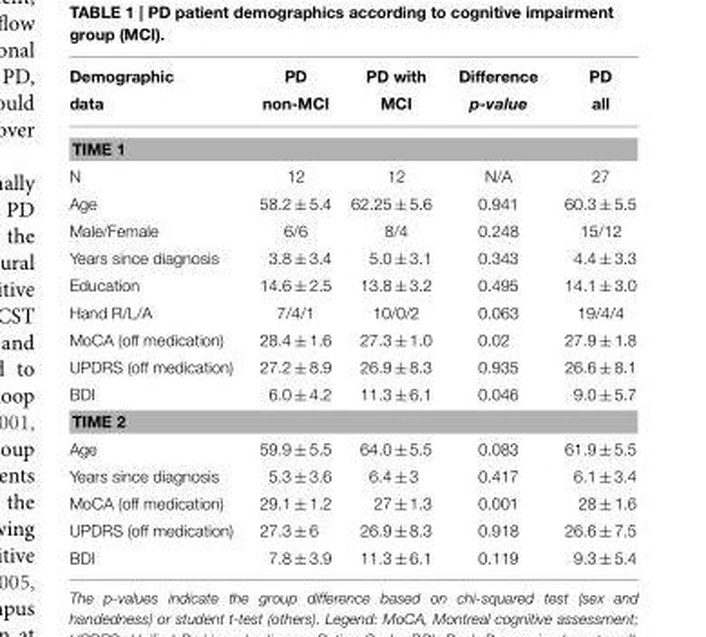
<table><thead><tr><td>Demographic data</td><td>PD non-MCI</td><td>PD with MCI</td><td>Difference p-value</td><td>PD all</td></tr></thead><tbody><tr><td colspan="5">TIME 1</td></tr><tr><td>N</td><td>12</td><td>12</td><td>N/A</td><td>27</td></tr><tr><td>Age</td><td>58.2 ± 5.4</td><td>62.25 ± 5.6</td><td>0.941</td><td>60.3 ± 5.5</td></tr><tr><td>Male/Female</td><td>6/6</td><td>8/4</td><td>0.248</td><td>15/12</td></tr><tr><td>Years since diagnosis</td><td>3.8 ± 3.4</td><td>5.0 ± 3.1</td><td>0.343</td><td>4.4 ± 3.3</td></tr><tr><td>Education</td><td>14.6 ± 2.5</td><td>13.8 ± 3.2</td><td>0.495</td><td>14.1 ± 3.0</td></tr><tr><td>Hand R/L/A</td><td>7/4/1</td><td>10/0/2</td><td>0.063</td><td>19/4/4</td></tr><tr><td>MoCA (off medication)</td><td>28.4 ± 1.6</td><td>27.3 ± 1.0</td><td>0.02</td><td>27.9 ± 1.8</td></tr><tr><td>UPDRS (off medication)</td><td>27.2 ± 8.9</td><td>26.9 ± 8.3</td><td>0.935</td><td>26.6 ± 8.1</td></tr><tr><td>BDI</td><td>6.0 ± 4.2</td><td>11.3 ± 6.1</td><td>0.046</td><td>9.0 ± 5.7</td></tr><tr><td colspan="5">TIME 2</td></tr><tr><td>Age</td><td>59.9 ± 5.5</td><td>64.0 ± 5.5</td><td>0.083</td><td>61.9 ± 5.5</td></tr><tr><td>Years since diagnosis</td><td>5.3 ± 3.6</td><td>6.4 ± 3</td><td>0.417</td><td>6.1 ± 3.4</td></tr><tr><td>MoCA (off medication)</td><td>29.1 ± 1.2</td><td>27 ± 1.3</td><td>0.001</td><td>28 ± 1.6</td></tr><tr><td>UPDRS (off medication)</td><td>27.3 ± 6</td><td>26.9 ± 8.3</td><td>0.918</td><td>26.6 ± 7.5</td></tr><tr><td>BDI</td><td>7.8 ± 3.9</td><td>11.3 ± 6.1</td><td>0.119</td><td>9.3 ± 5.4</td></tr></tbody></table>